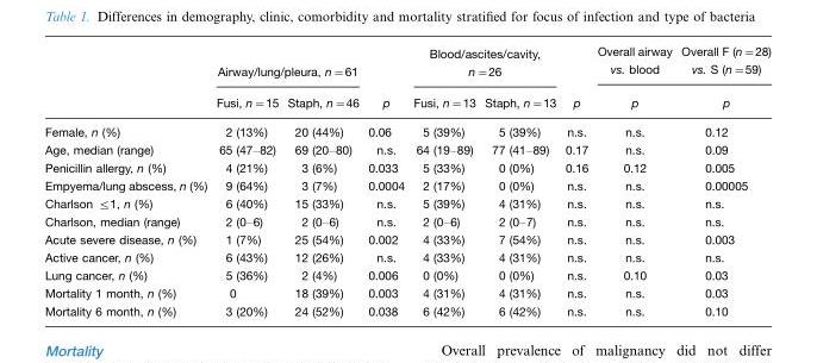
<table><thead><tr><td rowspan="2"></td><td colspan="2">Airway/lung/pleura, n=61</td><td rowspan="2">p</td><td colspan="2">Blood/ascites/cavity, n=26</td><td rowspan="2">p</td><td rowspan="2">Overall airway vs. blood p</td><td rowspan="2">Overall F (n=28) vs. S (n=59) p</td></tr><tr><td>Fusi, n=15</td><td>Staph, n=46</td><td>Fusi, n=13</td><td>Staph, n=13</td></tr></thead><tbody><tr><td>Female, n (%)</td><td>2 (13%)</td><td>20 (44%)</td><td>0.06</td><td>5 (39%)</td><td>5 (39%)</td><td>n.s.</td><td>n.s.</td><td>0.12</td></tr><tr><td>Age, median (range)</td><td>65 (47–82)</td><td>69 (20–80)</td><td>n.s.</td><td>64 (19–89)</td><td>77 (41–89)</td><td>0.17</td><td>n.s.</td><td>0.09</td></tr><tr><td>Penicillin allergy, n (%)</td><td>4 (21%)</td><td>3 (6%)</td><td>0.033</td><td>5 (33%)</td><td>0 (0%)</td><td>0.16</td><td>0.12</td><td>0.005</td></tr><tr><td>Empyema/lung abscess, n (%)</td><td>9 (64%)</td><td>3 (7%)</td><td>0.0004</td><td>2 (17%)</td><td>0 (0%)</td><td>n.s.</td><td>n.s.</td><td>0.00005</td></tr><tr><td>Charlson ≤1, n (%)</td><td>6 (40%)</td><td>15 (33%)</td><td>n.s.</td><td>5 (39%)</td><td>4 (31%)</td><td>n.s.</td><td>n.s.</td><td>n.s.</td></tr><tr><td>Charlson, median (range)</td><td>2 (0–6)</td><td>2 (0–6)</td><td>n.s.</td><td>2 (0–6)</td><td>2 (0–7)</td><td>n.s.</td><td>n.s.</td><td>n.s.</td></tr><tr><td>Acute severe disease, n (%)</td><td>1 (7%)</td><td>25 (54%)</td><td>0.002</td><td>4 (33%)</td><td>7 (54%)</td><td>n.s.</td><td>n.s.</td><td>0.003</td></tr><tr><td>Active cancer, n (%)</td><td>6 (43%)</td><td>12 (26%)</td><td>n.s.</td><td>4 (33%)</td><td>4 (31%)</td><td>n.s.</td><td>n.s.</td><td>n.s.</td></tr><tr><td>Lung cancer, n (%)</td><td>5 (36%)</td><td>2 (4%)</td><td>0.006</td><td>0 (0%)</td><td>0 (0%)</td><td>n.s.</td><td>0.10</td><td>0.03</td></tr><tr><td>Mortality 1 month, n (%)</td><td>0</td><td>18 (39%)</td><td>0.003</td><td>4 (31%)</td><td>4 (31%)</td><td>n.s.</td><td>n.s.</td><td>0.03</td></tr><tr><td>Mortality 6 month, n (%)</td><td>3 (20%)</td><td>24 (52%)</td><td>0.038</td><td>6 (42%)</td><td>6 (42%)</td><td>n.s.</td><td>n.s.</td><td>0.10</td></tr></tbody></table>